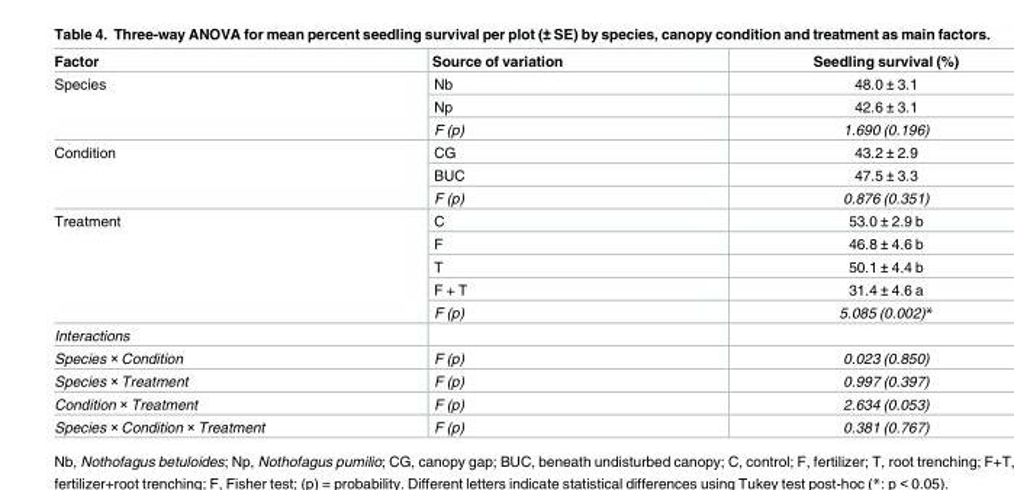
<table><thead><tr><td>Factor</td><td>Source of variation</td><td>Seedling survival (%)</td></tr></thead><tbody><tr><td rowspan="3">Species</td><td>Nb</td><td>48.0 ± 3.1</td></tr><tr><td>Np</td><td>42.6 ± 3.1</td></tr><tr><td>F (p)</td><td>1.690 (0.196)</td></tr><tr><td rowspan="3">Condition</td><td>CG</td><td>43.2 ± 2.9</td></tr><tr><td>BUC</td><td>47.5 ± 3.3</td></tr><tr><td>F (p)</td><td>0.876 (0.351)</td></tr><tr><td rowspan="5">Treatment</td><td>C</td><td>53.0 ± 2.9 b</td></tr><tr><td>F</td><td>46.8 ± 4.6 b</td></tr><tr><td>T</td><td>50.1 ± 4.4 b</td></tr><tr><td>F + T</td><td>31.4 ± 4.6 a</td></tr><tr><td>F (p)</td><td>5.085 (0.002)*</td></tr><tr><td colspan="3">Interactions</td></tr><tr><td>Species × Condition</td><td>F (p)</td><td>0.023 (0.850)</td></tr><tr><td>Species × Treatment</td><td>F (p)</td><td>0.997 (0.397)</td></tr><tr><td>Condition × Treatment</td><td>F (p)</td><td>2.634 (0.053)</td></tr><tr><td>Species × Condition × Treatment</td><td>F (p)</td><td>0.381 (0.767)</td></tr></tbody></table>